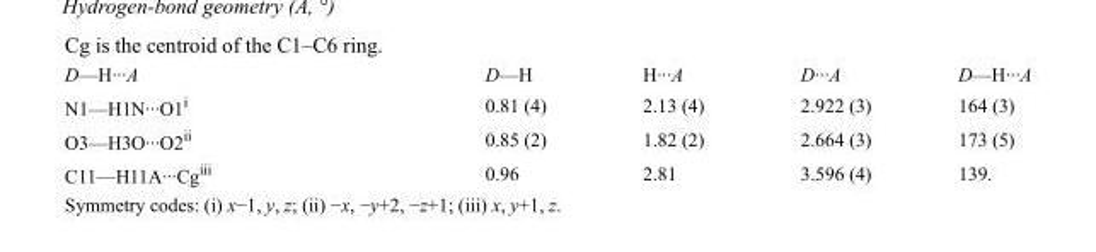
<table><tbody><tr><td>D—H···A</td><td>D—H</td><td>H···A</td><td>D···A</td><td>D—H···A</td></tr><tr><td>N1—H1N···O1<sup>i</sup></td><td>0.81 (4)</td><td>2.13 (4)</td><td>2.922 (3)</td><td>164 (3)</td></tr><tr><td>O3—H3O···O2<sup>ii</sup></td><td>0.85 (2)</td><td>1.82 (2)</td><td>2.664 (3)</td><td>173 (5)</td></tr><tr><td>C11—H11A···Cg<sup>iii</sup></td><td>0.96</td><td>2.81</td><td>3.596 (4)</td><td>139.</td></tr></tbody></table>